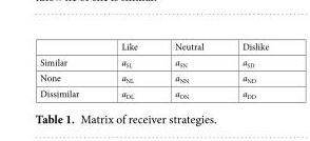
<table><thead><tr><td></td><td>Like</td><td>Neutral</td><td>Dislike</td></tr></thead><tbody><tr><td>Similar</td><td>a<sub>SL</sub></td><td>a<sub>SN</sub></td><td>a<sub>SD</sub></td></tr><tr><td>None</td><td>a<sub>NL</sub></td><td>a<sub>NN</sub></td><td>a<sub>ND</sub></td></tr><tr><td>Dissimilar</td><td>a<sub>DL</sub></td><td>a<sub>DN</sub></td><td>a<sub>DD</sub></td></tr></tbody></table>